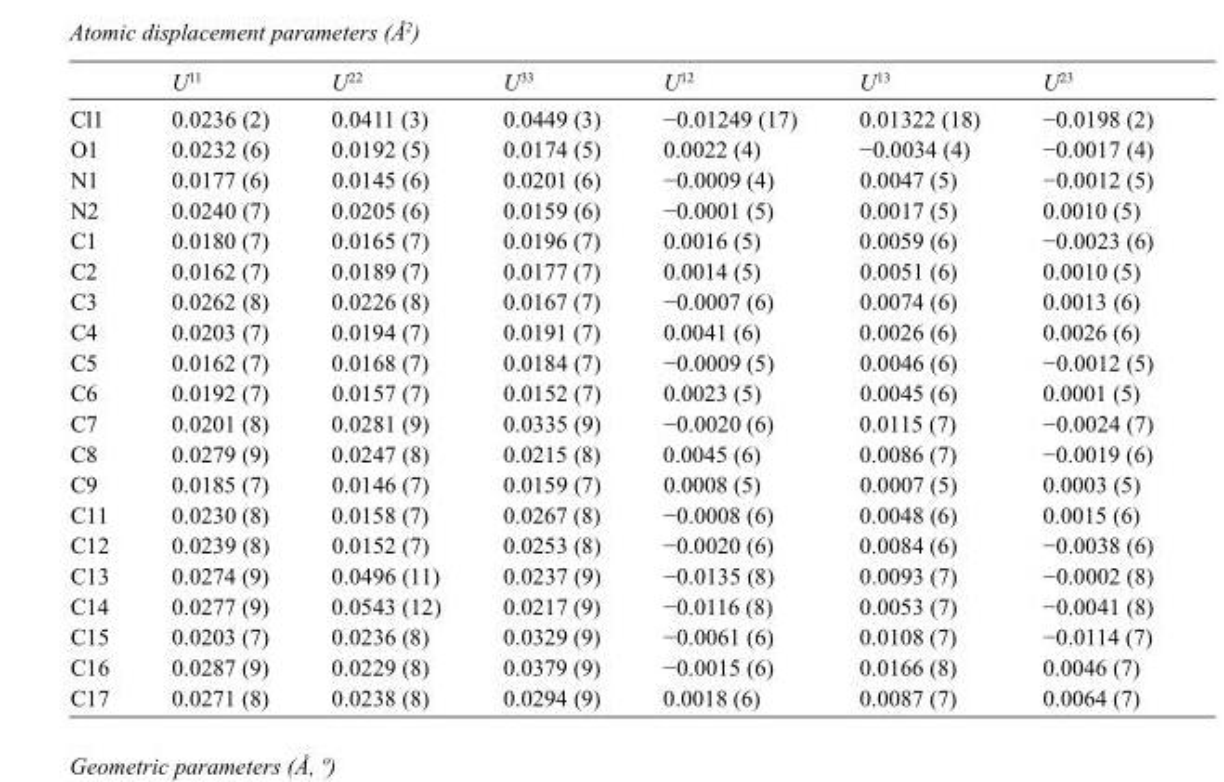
<table><thead><tr><td></td><td>U<sup>11</sup></td><td>U<sup>22</sup></td><td>U<sup>33</sup></td><td>U<sup>12</sup></td><td>U<sup>13</sup></td><td>U<sup>23</sup></td></tr></thead><tbody><tr><td>Cl1</td><td>0.0236 (2)</td><td>0.0411 (3)</td><td>0.0449 (3)</td><td>−0.01249 (17)</td><td>0.01322 (18)</td><td>−0.0198 (2)</td></tr><tr><td>O1</td><td>0.0232 (6)</td><td>0.0192 (5)</td><td>0.0174 (5)</td><td>0.0022 (4)</td><td>−0.0034 (4)</td><td>−0.0017 (4)</td></tr><tr><td>N1</td><td>0.0177 (6)</td><td>0.0145 (6)</td><td>0.0201 (6)</td><td>−0.0009 (4)</td><td>0.0047 (5)</td><td>−0.0012 (5)</td></tr><tr><td>N2</td><td>0.0240 (7)</td><td>0.0205 (6)</td><td>0.0159 (6)</td><td>−0.0001 (5)</td><td>0.0017 (5)</td><td>0.0010 (5)</td></tr><tr><td>C1</td><td>0.0180 (7)</td><td>0.0165 (7)</td><td>0.0196 (7)</td><td>0.0016 (5)</td><td>0.0059 (6)</td><td>−0.0023 (6)</td></tr><tr><td>C2</td><td>0.0162 (7)</td><td>0.0189 (7)</td><td>0.0177 (7)</td><td>0.0014 (5)</td><td>0.0051 (6)</td><td>0.0010 (5)</td></tr><tr><td>C3</td><td>0.0262 (8)</td><td>0.0226 (8)</td><td>0.0167 (7)</td><td>−0.0007 (6)</td><td>0.0074 (6)</td><td>0.0013 (6)</td></tr><tr><td>C4</td><td>0.0203 (7)</td><td>0.0194 (7)</td><td>0.0191 (7)</td><td>0.0041 (6)</td><td>0.0026 (6)</td><td>0.0026 (6)</td></tr><tr><td>C5</td><td>0.0162 (7)</td><td>0.0168 (7)</td><td>0.0184 (7)</td><td>−0.0009 (5)</td><td>0.0046 (6)</td><td>−0.0012 (5)</td></tr><tr><td>C6</td><td>0.0192 (7)</td><td>0.0157 (7)</td><td>0.0152 (7)</td><td>0.0023 (5)</td><td>0.0045 (6)</td><td>0.0001 (5)</td></tr><tr><td>C7</td><td>0.0201 (8)</td><td>0.0281 (9)</td><td>0.0335 (9)</td><td>−0.0020 (6)</td><td>0.0115 (7)</td><td>−0.0024 (7)</td></tr><tr><td>C8</td><td>0.0279 (9)</td><td>0.0247 (8)</td><td>0.0215 (8)</td><td>0.0045 (6)</td><td>0.0086 (7)</td><td>−0.0019 (6)</td></tr><tr><td>C9</td><td>0.0185 (7)</td><td>0.0146 (7)</td><td>0.0159 (7)</td><td>0.0008 (5)</td><td>0.0007 (5)</td><td>0.0003 (5)</td></tr><tr><td>C11</td><td>0.0230 (8)</td><td>0.0158 (7)</td><td>0.0267 (8)</td><td>−0.0008 (6)</td><td>0.0048 (6)</td><td>0.0015 (6)</td></tr><tr><td>C12</td><td>0.0239 (8)</td><td>0.0152 (7)</td><td>0.0253 (8)</td><td>−0.0020 (6)</td><td>0.0084 (6)</td><td>−0.0038 (6)</td></tr><tr><td>C13</td><td>0.0274 (9)</td><td>0.0496 (11)</td><td>0.0237 (9)</td><td>−0.0135 (8)</td><td>0.0093 (7)</td><td>−0.0002 (8)</td></tr><tr><td>C14</td><td>0.0277 (9)</td><td>0.0543 (12)</td><td>0.0217 (9)</td><td>−0.0116 (8)</td><td>0.0053 (7)</td><td>−0.0041 (8)</td></tr><tr><td>C15</td><td>0.0203 (7)</td><td>0.0236 (8)</td><td>0.0329 (9)</td><td>−0.0061 (6)</td><td>0.0108 (7)</td><td>−0.0114 (7)</td></tr><tr><td>C16</td><td>0.0287 (9)</td><td>0.0229 (8)</td><td>0.0379 (9)</td><td>−0.0015 (6)</td><td>0.0166 (8)</td><td>0.0046 (7)</td></tr><tr><td>C17</td><td>0.0271 (8)</td><td>0.0238 (8)</td><td>0.0294 (9)</td><td>0.0018 (6)</td><td>0.0087 (7)</td><td>0.0064 (7)</td></tr></tbody></table>